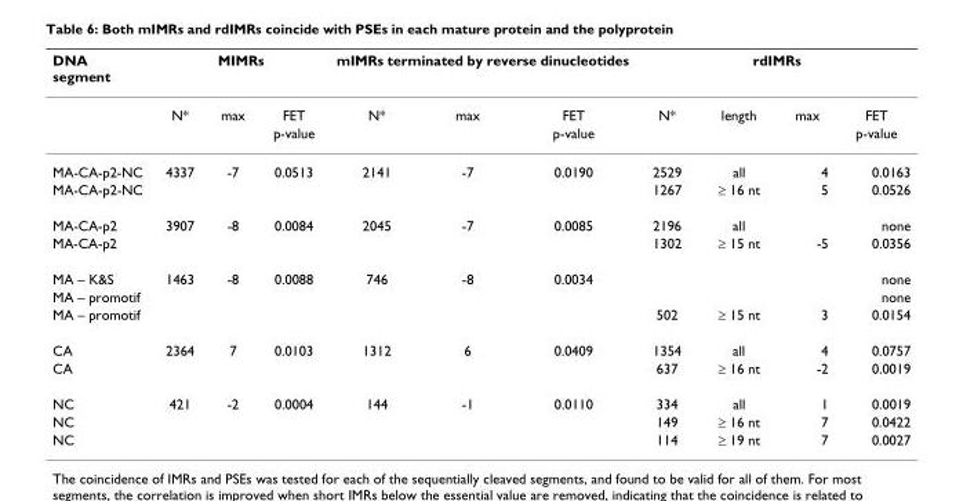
<table><thead><tr><td rowspan="2">DNA segment</td><td colspan="3">MIMRs</td><td colspan="3">mIMRs terminated by reverse dinucleotides</td><td colspan="4">rdIMRs</td></tr><tr><td>N*</td><td>max</td><td>FET</td><td>N*</td><td>max</td><td>FET</td><td>N*</td><td>length</td><td>max</td><td>FET</td></tr></thead><tbody><tr><td></td><td></td><td></td><td>p-value</td><td></td><td></td><td>p-value</td><td></td><td></td><td></td><td>p-value</td></tr><tr><td>MA-CA-p2-NC</td><td>4337</td><td>-7</td><td>0.0513</td><td>2141</td><td>-7</td><td>0.0190</td><td>2529</td><td>all</td><td>4</td><td>0.0163</td></tr><tr><td>MA-CA-p2-NC</td><td></td><td></td><td></td><td></td><td></td><td></td><td>1267</td><td>≥ 16 nt</td><td>5</td><td>0.0526</td></tr><tr><td>MA-CA-p2</td><td>3907</td><td>-8</td><td>0.0084</td><td>2045</td><td>-7</td><td>0.0085</td><td>2196</td><td>all</td><td></td><td>none</td></tr><tr><td>MA-CA-p2</td><td></td><td></td><td></td><td></td><td></td><td></td><td>1302</td><td>≥ 15 nt</td><td>-5</td><td>0.0356</td></tr><tr><td>MA – K&amp;S</td><td>1463</td><td>-8</td><td>0.0088</td><td>746</td><td>-8</td><td>0.0034</td><td></td><td></td><td></td><td>none</td></tr><tr><td>MA – promotif</td><td></td><td></td><td></td><td></td><td></td><td></td><td></td><td></td><td></td><td>none</td></tr><tr><td>MA – promotif</td><td></td><td></td><td></td><td></td><td></td><td></td><td>502</td><td>≥ 15 nt</td><td>3</td><td>0.0154</td></tr><tr><td>CA</td><td>2364</td><td>7</td><td>0.0103</td><td>1312</td><td>6</td><td>0.0409</td><td>1354</td><td>all</td><td>4</td><td>0.0757</td></tr><tr><td>CA</td><td></td><td></td><td></td><td></td><td></td><td></td><td>637</td><td>≥ 16 nt</td><td>-2</td><td>0.0019</td></tr><tr><td>NC</td><td>421</td><td>-2</td><td>0.0004</td><td>144</td><td>-1</td><td>0.0110</td><td>334</td><td>all</td><td>1</td><td>0.0019</td></tr><tr><td>NC</td><td></td><td></td><td></td><td></td><td></td><td></td><td>149</td><td>≥ 16 nt</td><td>7</td><td>0.0422</td></tr><tr><td>NC</td><td></td><td></td><td></td><td></td><td></td><td></td><td>114</td><td>≥ 19 nt</td><td>7</td><td>0.0027</td></tr></tbody></table>